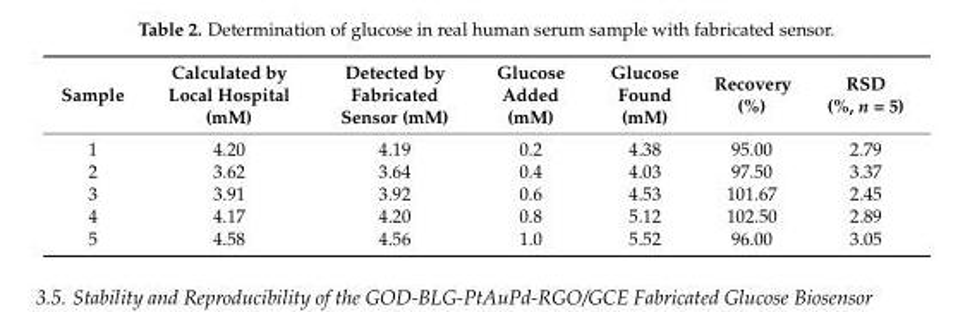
<table><thead><tr><td>Sample</td><td>Calculated by Local Hospital (mM)</td><td>Detected by Fabricated Sensor (mM)</td><td>Glucose Added (mM)</td><td>Glucose Found (mM)</td><td>Recovery (%)</td><td>RSD (%, n = 5)</td></tr></thead><tbody><tr><td>1</td><td>4.20</td><td>4.19</td><td>0.2</td><td>4.38</td><td>95.00</td><td>2.79</td></tr><tr><td>2</td><td>3.62</td><td>3.64</td><td>0.4</td><td>4.03</td><td>97.50</td><td>3.37</td></tr><tr><td>3</td><td>3.91</td><td>3.92</td><td>0.6</td><td>4.53</td><td>101.67</td><td>2.45</td></tr><tr><td>4</td><td>4.17</td><td>4.20</td><td>0.8</td><td>5.12</td><td>102.50</td><td>2.89</td></tr><tr><td>5</td><td>4.58</td><td>4.56</td><td>1.0</td><td>5.52</td><td>96.00</td><td>3.05</td></tr></tbody></table>